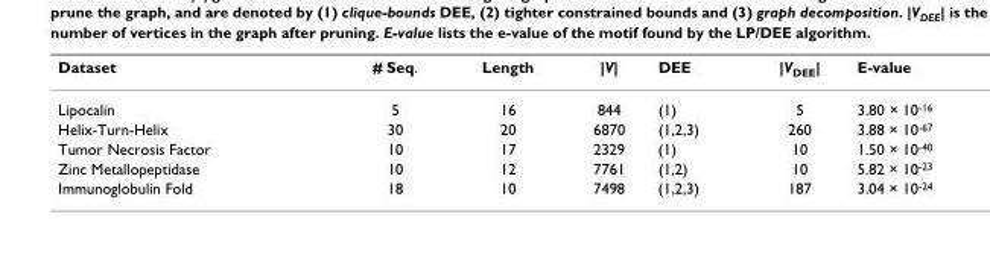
<table><thead><tr><td>Dataset</td><td># Seq.</td><td>Length</td><td>|V|</td><td>DEE</td><td>|V<sub>DEE</sub>|</td><td>E-value</td></tr></thead><tbody><tr><td>Lipocalin</td><td>5</td><td>16</td><td>844</td><td>(1)</td><td>5</td><td>3.80 × 10<sup>-16</sup></td></tr><tr><td>Helix-Turn-Helix</td><td>30</td><td>20</td><td>6870</td><td>(1,2,3)</td><td>260</td><td>3.88 × 10<sup>-67</sup></td></tr><tr><td>Tumor Necrosis Factor</td><td>10</td><td>17</td><td>2329</td><td>(1)</td><td>10</td><td>1.50 × 10<sup>-40</sup></td></tr><tr><td>Zinc Metallopeptidase</td><td>10</td><td>12</td><td>7761</td><td>(1,2)</td><td>10</td><td>5.82 × 10<sup>-23</sup></td></tr><tr><td>Immunoglobulin Fold</td><td>18</td><td>10</td><td>7498</td><td>(1,2,3)</td><td>187</td><td>3.04 × 10<sup>-24</sup></td></tr></tbody></table>